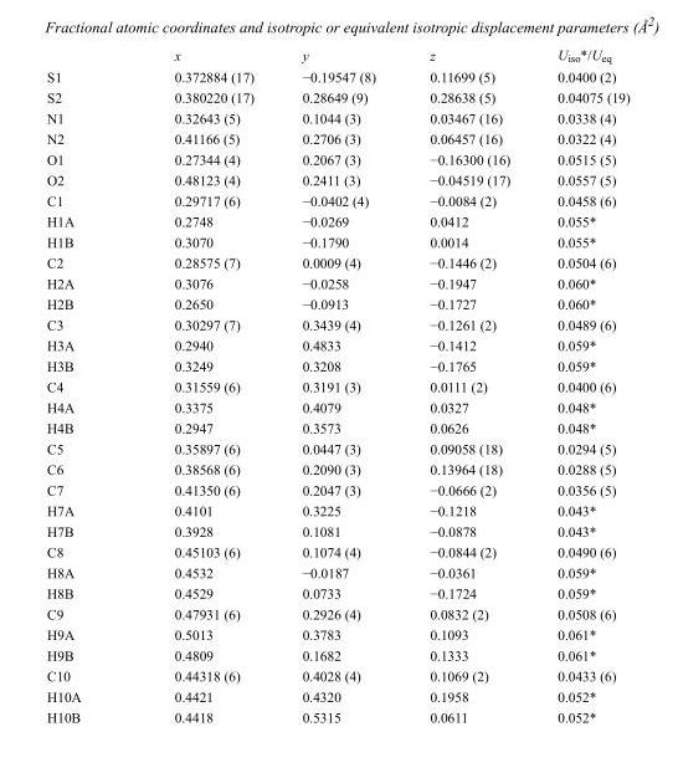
<table><thead><tr><td></td><td>x</td><td>y</td><td>z</td><td>U<sub>iso</sub>*/U<sub>eq</sub></td></tr></thead><tbody><tr><td>S1</td><td>0.372884 (17)</td><td>−0.19547 (8)</td><td>0.11699 (5)</td><td>0.0400 (2)</td></tr><tr><td>S2</td><td>0.380220 (17)</td><td>0.28649 (9)</td><td>0.28638 (5)</td><td>0.04075 (19)</td></tr><tr><td>N1</td><td>0.32643 (5)</td><td>0.1044 (3)</td><td>0.03467 (16)</td><td>0.0338 (4)</td></tr><tr><td>N2</td><td>0.41166 (5)</td><td>0.2706 (3)</td><td>0.06457 (16)</td><td>0.0322 (4)</td></tr><tr><td>O1</td><td>0.27344 (4)</td><td>0.2067 (3)</td><td>−0.16300 (16)</td><td>0.0515 (5)</td></tr><tr><td>O2</td><td>0.48123 (4)</td><td>0.2411 (3)</td><td>−0.04519 (17)</td><td>0.0557 (5)</td></tr><tr><td>C1</td><td>0.29717 (6)</td><td>−0.0402 (4)</td><td>−0.0084 (2)</td><td>0.0458 (6)</td></tr><tr><td>H1A</td><td>0.2748</td><td>−0.0269</td><td>0.0412</td><td>0.055*</td></tr><tr><td>H1B</td><td>0.3070</td><td>−0.1790</td><td>0.0014</td><td>0.055*</td></tr><tr><td>C2</td><td>0.28575 (7)</td><td>0.0009 (4)</td><td>−0.1446 (2)</td><td>0.0504 (6)</td></tr><tr><td>H2A</td><td>0.3076</td><td>−0.0258</td><td>−0.1947</td><td>0.060*</td></tr><tr><td>H2B</td><td>0.2650</td><td>−0.0913</td><td>−0.1727</td><td>0.060*</td></tr><tr><td>C3</td><td>0.30297 (7)</td><td>0.3439 (4)</td><td>−0.1261 (2)</td><td>0.0489 (6)</td></tr><tr><td>H3A</td><td>0.2940</td><td>0.4833</td><td>−0.1412</td><td>0.059*</td></tr><tr><td>H3B</td><td>0.3249</td><td>0.3208</td><td>−0.1765</td><td>0.059*</td></tr><tr><td>C4</td><td>0.31559 (6)</td><td>0.3191 (3)</td><td>0.0111 (2)</td><td>0.0400 (6)</td></tr><tr><td>H4A</td><td>0.3375</td><td>0.4079</td><td>0.0327</td><td>0.048*</td></tr><tr><td>H4B</td><td>0.2947</td><td>0.3573</td><td>0.0626</td><td>0.048*</td></tr><tr><td>C5</td><td>0.35897 (6)</td><td>0.0447 (3)</td><td>0.09058 (18)</td><td>0.0294 (5)</td></tr><tr><td>C6</td><td>0.38568 (6)</td><td>0.2090 (3)</td><td>0.13964 (18)</td><td>0.0288 (5)</td></tr><tr><td>C7</td><td>0.41350 (6)</td><td>0.2047 (3)</td><td>−0.0666 (2)</td><td>0.0356 (5)</td></tr><tr><td>H7A</td><td>0.4101</td><td>0.3225</td><td>−0.1218</td><td>0.043*</td></tr><tr><td>H7B</td><td>0.3928</td><td>0.1081</td><td>−0.0878</td><td>0.043*</td></tr><tr><td>C8</td><td>0.45103 (6)</td><td>0.1074 (4)</td><td>−0.0844 (2)</td><td>0.0490 (6)</td></tr><tr><td>H8A</td><td>0.4532</td><td>−0.0187</td><td>−0.0361</td><td>0.059*</td></tr><tr><td>H8B</td><td>0.4529</td><td>0.0733</td><td>−0.1724</td><td>0.059*</td></tr><tr><td>C9</td><td>0.47931 (6)</td><td>0.2926 (4)</td><td>0.0832 (2)</td><td>0.0508 (6)</td></tr><tr><td>H9A</td><td>0.5013</td><td>0.3783</td><td>0.1093</td><td>0.061*</td></tr><tr><td>H9B</td><td>0.4809</td><td>0.1682</td><td>0.1333</td><td>0.061*</td></tr><tr><td>C10</td><td>0.44318 (6)</td><td>0.4028 (4)</td><td>0.1069 (2)</td><td>0.0433 (6)</td></tr><tr><td>H10A</td><td>0.4421</td><td>0.4320</td><td>0.1958</td><td>0.052*</td></tr><tr><td>H10B</td><td>0.4418</td><td>0.5315</td><td>0.0611</td><td>0.052*</td></tr></tbody></table>